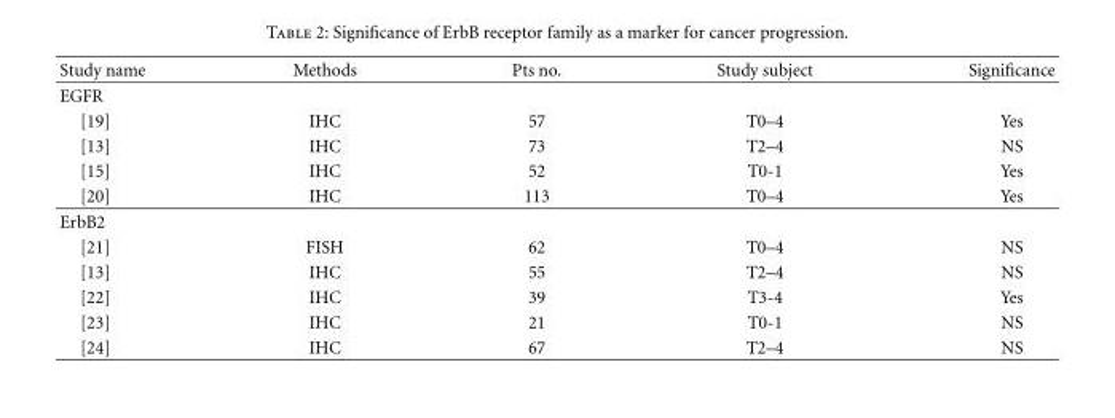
<table><thead><tr><td>Study name</td><td>Methods</td><td>Pts no.</td><td>Study subject</td><td>Significance</td></tr></thead><tbody><tr><td colspan="5">EGFR</td></tr><tr><td>[19]</td><td>IHC</td><td>57</td><td>T0–4</td><td>Yes</td></tr><tr><td>[13]</td><td>IHC</td><td>73</td><td>T2–4</td><td>NS</td></tr><tr><td>[15]</td><td>IHC</td><td>52</td><td>T0-1</td><td>Yes</td></tr><tr><td>[20]</td><td>IHC</td><td>113</td><td>T0–4</td><td>Yes</td></tr><tr><td colspan="5">ErbB2</td></tr><tr><td>[21]</td><td>FISH</td><td>62</td><td>T0–4</td><td>NS</td></tr><tr><td>[13]</td><td>IHC</td><td>55</td><td>T2–4</td><td>NS</td></tr><tr><td>[22]</td><td>IHC</td><td>39</td><td>T3-4</td><td>Yes</td></tr><tr><td>[23]</td><td>IHC</td><td>21</td><td>T0-1</td><td>NS</td></tr><tr><td>[24]</td><td>IHC</td><td>67</td><td>T2–4</td><td>NS</td></tr></tbody></table>